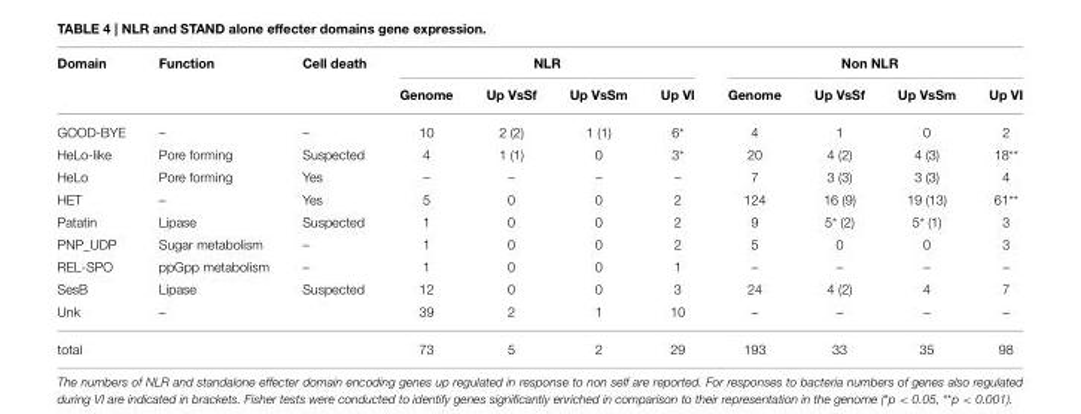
<table><thead><tr><td rowspan="2">Domain</td><td rowspan="2">Function</td><td rowspan="2">Cell death</td><td colspan="4">NLR</td><td colspan="4">Non NLR</td></tr><tr><td>Genome</td><td>Up VsSf</td><td>Up VsSm</td><td>Up VI</td><td>Genome</td><td>Up VsSf</td><td>Up VsSm</td><td>Up VI</td></tr></thead><tbody><tr><td>GOOD-BYE</td><td>–</td><td>–</td><td>10</td><td>2 (2)</td><td>1 (1)</td><td>6*</td><td>4</td><td>1</td><td>0</td><td>2</td></tr><tr><td>HeLo-like</td><td>Pore forming</td><td>Suspected</td><td>4</td><td>1 (1)</td><td>0</td><td>3*</td><td>20</td><td>4 (2)</td><td>4 (3)</td><td>18**</td></tr><tr><td>HeLo</td><td>Pore forming</td><td>Yes</td><td>–</td><td>–</td><td>–</td><td>–</td><td>7</td><td>3 (3)</td><td>3 (3)</td><td>4</td></tr><tr><td>HET</td><td>–</td><td>Yes</td><td>5</td><td>0</td><td>0</td><td>2</td><td>124</td><td>16 (9)</td><td>19 (13)</td><td>61**</td></tr><tr><td>Patatin</td><td>Lipase</td><td>Suspected</td><td>1</td><td>0</td><td>0</td><td>2</td><td>9</td><td>5* (2)</td><td>5* (1)</td><td>3</td></tr><tr><td>PNP_UDP</td><td>Sugar metabolism</td><td>–</td><td>1</td><td>0</td><td>0</td><td>2</td><td>5</td><td>0</td><td>0</td><td>3</td></tr><tr><td>REL-SPO</td><td>ppGpp metabolism</td><td>–</td><td>1</td><td>0</td><td>0</td><td>1</td><td>–</td><td>–</td><td>–</td><td>–</td></tr><tr><td>SesB</td><td>Lipase</td><td>Suspected</td><td>12</td><td>0</td><td>0</td><td>3</td><td>24</td><td>4 (2)</td><td>4</td><td>7</td></tr><tr><td>Unk</td><td>–</td><td></td><td>39</td><td>2</td><td>1</td><td>10</td><td>–</td><td>–</td><td>–</td><td>–</td></tr><tr><td>total</td><td></td><td></td><td>73</td><td>5</td><td>2</td><td>29</td><td>193</td><td>33</td><td>35</td><td>98</td></tr></tbody></table>